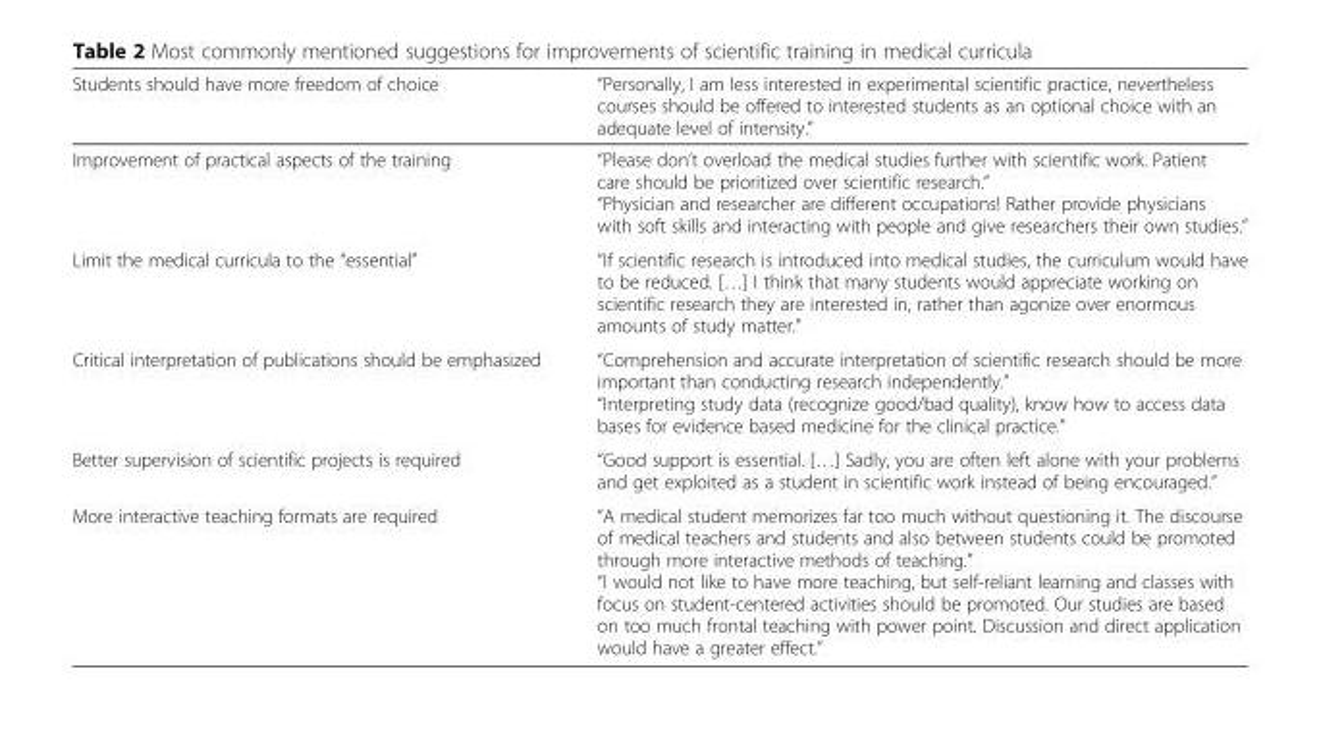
<table><thead><tr><td>Students should have more freedom of choice</td><td>“Personally, I am less interested in experimental scientific practice, nevertheless courses should be offered to interested students as an optional choice with an adequate level of intensity.”</td></tr></thead><tbody><tr><td>Improvement of practical aspects of the training</td><td>“Please don’t overload the medical studies further with scientific work. Patient care should be prioritized over scientific research.” “Physician and researcher are different occupations! Rather provide physicians with soft skills and interacting with people and give researchers their own studies.”</td></tr><tr><td>Limit the medical curricula to the “essential”</td><td>“If scientific research is introduced into medical studies, the curriculum would have to be reduced. […] I think that many students would appreciate working on scientific research they are interested in, rather than agonize over enormous amounts of study matter.”</td></tr><tr><td>Critical interpretation of publications should be emphasized</td><td>“Comprehension and accurate interpretation of scientific research should be more important than conducting research independently.” “Interpreting study data (recognize good/bad quality), know how to access data bases for evidence based medicine for the clinical practice.”</td></tr><tr><td>Better supervision of scientific projects is required</td><td>“Good support is essential. […] Sadly, you are often left alone with your problems and get exploited as a student in scientific work instead of being encouraged.”</td></tr><tr><td>More interactive teaching formats are required</td><td>“A medical student memorizes far too much without questioning it. The discourse of medical teachers and students and also between students could be promoted through more interactive methods of teaching.” “I would not like to have more teaching, but self-reliant learning and classes with focus on student-centered activities should be promoted. Our studies are based on too much frontal teaching with power point. Discussion and direct application would have a greater effect.”</td></tr></tbody></table>